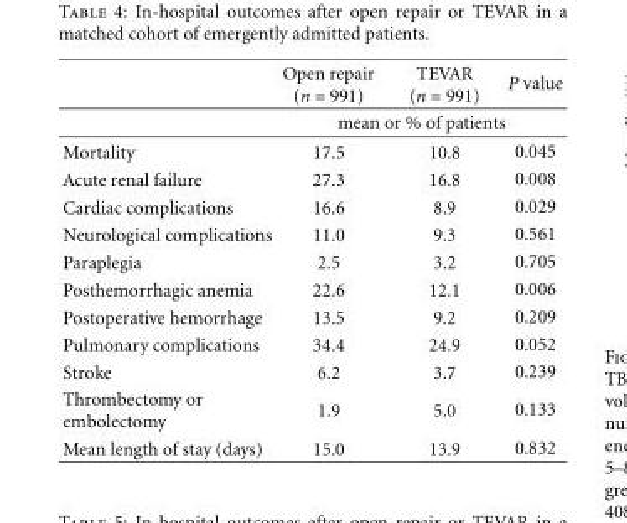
<table><thead><tr><td></td><td>Open repair (n = 991)</td><td>TEVAR (n = 991)</td><td>P value</td></tr></thead><tbody><tr><td></td><td colspan="3">mean or % of patients</td></tr><tr><td>Mortality</td><td>17.5</td><td>10.8</td><td>0.045</td></tr><tr><td>Acute renal failure</td><td>27.3</td><td>16.8</td><td>0.008</td></tr><tr><td>Cardiac complications</td><td>16.6</td><td>8.9</td><td>0.029</td></tr><tr><td>Neurological complications</td><td>11.0</td><td>9.3</td><td>0.561</td></tr><tr><td>Paraplegia</td><td>2.5</td><td>3.2</td><td>0.705</td></tr><tr><td>Posthemorrhagic anemia</td><td>22.6</td><td>12.1</td><td>0.006</td></tr><tr><td>Postoperative hemorrhage</td><td>13.5</td><td>9.2</td><td>0.209</td></tr><tr><td>Pulmonary complications</td><td>34.4</td><td>24.9</td><td>0.052</td></tr><tr><td>Stroke</td><td>6.2</td><td>3.7</td><td>0.239</td></tr><tr><td>Thrombectomy or embolectomy</td><td>1.9</td><td>5.0</td><td>0.133</td></tr><tr><td>Mean length of stay (days)</td><td>15.0</td><td>13.9</td><td>0.832</td></tr></tbody></table>